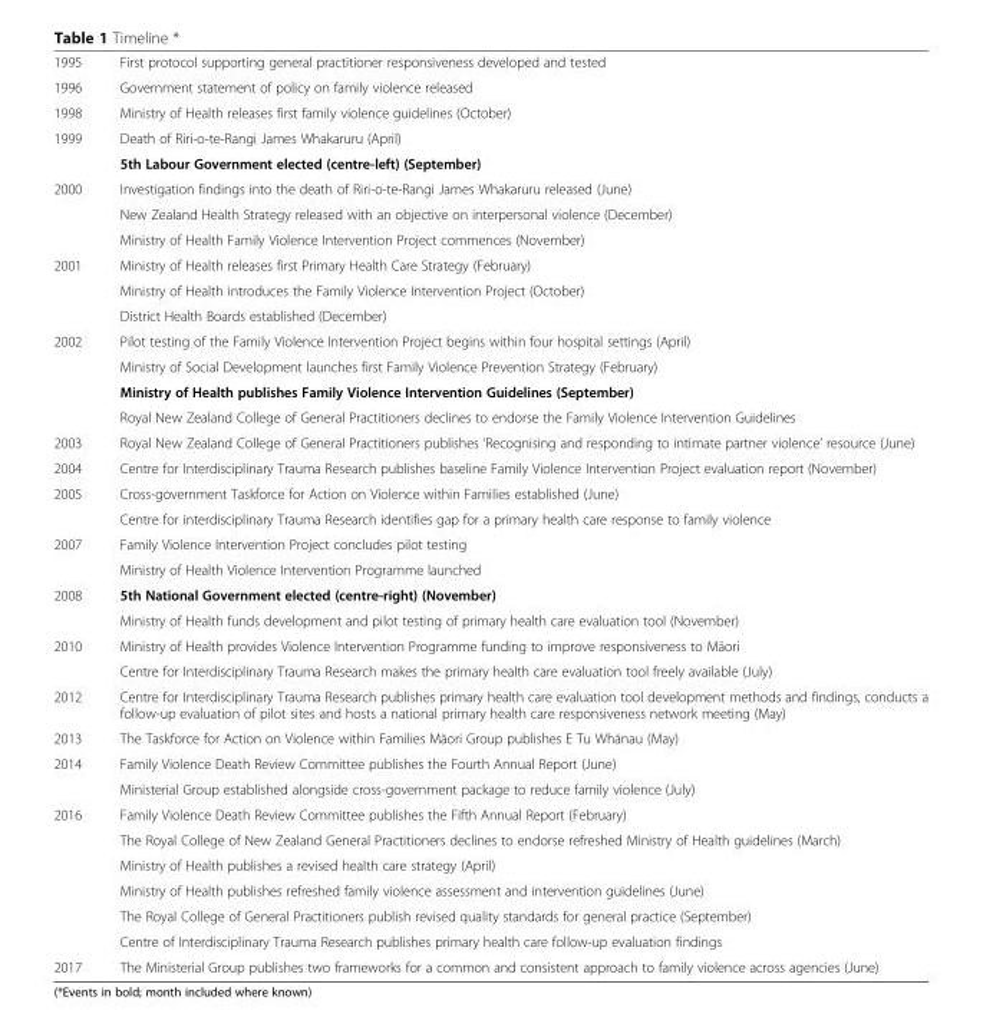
<table><tbody><tr><td>1995</td><td>First protocol supporting general practitioner responsiveness developed and tested</td></tr><tr><td>1996</td><td>Government statement of policy on family violence released</td></tr><tr><td>1998</td><td>Ministry of Health releases first family violence guidelines (October)</td></tr><tr><td rowspan="2">1999</td><td>Death of Riri-o-te-Rangi James Whakaruru (April)</td></tr><tr><td>5th Labour Government elected (centre-left) (September)</td></tr><tr><td rowspan="3">2000</td><td>Investigation findings into the death of Riri-o-te-Rangi James Whakaruru released (June)</td></tr><tr><td>New Zealand Health Strategy released with an objective on interpersonal violence (December)</td></tr><tr><td>Ministry of Health Family Violence Intervention Project commences (November)</td></tr><tr><td rowspan="3">2001</td><td>Ministry of Health releases first Primary Health Care Strategy (February)</td></tr><tr><td>Ministry of Health introduces the Family Violence Intervention Project (October)</td></tr><tr><td>District Health Boards established (December)</td></tr><tr><td rowspan="4">2002</td><td>Pilot testing of the Family Violence Intervention Project begins within four hospital settings (April)</td></tr><tr><td>Ministry of Social Development launches first Family Violence Prevention Strategy (February)</td></tr><tr><td>Ministry of Health publishes Family Violence Intervention Guidelines (September)</td></tr><tr><td>Royal New Zealand College of General Practitioners declines to endorse the Family Violence Intervention Guidelines</td></tr><tr><td>2003</td><td>Royal New Zealand College of General Practitioners publishes ‘Recognising and responding to intimate partner violence’ resource (June)</td></tr><tr><td>2004</td><td>Centre for Interdisciplinary Trauma Research publishes baseline Family Violence Intervention Project evaluation report (November)</td></tr><tr><td rowspan="2">2005</td><td>Cross-government Taskforce for Action on Violence within Families established (June)</td></tr><tr><td>Centre for interdisciplinary Trauma Research identifies gap for a primary health care response to family violence</td></tr><tr><td rowspan="2">2007</td><td>Family Violence Intervention Project concludes pilot testing</td></tr><tr><td>Ministry of Health Violence Intervention Programme launched</td></tr><tr><td rowspan="2">2008</td><td>5th National Government elected (centre-right) (November)</td></tr><tr><td>Ministry of Health funds development and pilot testing of primary health care evaluation tool (November)</td></tr><tr><td rowspan="2">2010</td><td>Ministry of Health provides Violence Intervention Programme funding to improve responsiveness to Māori</td></tr><tr><td>Centre for Interdisciplinary Trauma Research makes the primary health care evaluation tool freely available (July)</td></tr><tr><td>2012</td><td>Centre for Interdisciplinary Trauma Research publishes primary health care evaluation tool development methods and findings, conducts a follow-up evaluation of pilot sites and hosts a national primary health care responsiveness network meeting (May)</td></tr><tr><td>2013</td><td>The Taskforce for Action on Violence within Families Māori Group publishes E Tu Whānau (May)</td></tr><tr><td rowspan="2">2014</td><td>Family Violence Death Review Committee publishes the Fourth Annual Report (June)</td></tr><tr><td>Ministerial Group established alongside cross-government package to reduce family violence (July)</td></tr><tr><td rowspan="6">2016</td><td>Family Violence Death Review Committee publishes the Fifth Annual Report (February)</td></tr><tr><td>The Royal College of New Zealand General Practitioners declines to endorse refreshed Ministry of Health guidelines (March)</td></tr><tr><td>Ministry of Health publishes a revised health care strategy (April)</td></tr><tr><td>Ministry of Health publishes refreshed family violence assessment and intervention guidelines (June)</td></tr><tr><td>The Royal College of General Practitioners publish revised quality standards for general practice (September)</td></tr><tr><td>Centre of Interdisciplinary Trauma Research publishes primary health care follow-up evaluation findings</td></tr><tr><td>2017</td><td>The Ministerial Group publishes two frameworks for a common and consistent approach to family violence across agencies (June)</td></tr></tbody></table>